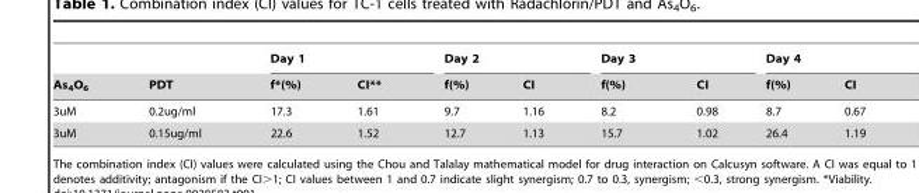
<table><thead><tr><td rowspan="2">As<sub>4</sub>O<sub>6</sub></td><td rowspan="2">PDT</td><td colspan="2">Day 1</td><td colspan="2">Day 2</td><td colspan="2">Day 3</td><td colspan="2">Day 4</td></tr><tr><td>f*(%)</td><td>CI**</td><td>f(%)</td><td>CI</td><td>f(%)</td><td>CI</td><td>f(%)</td><td>CI</td></tr></thead><tbody><tr><td>3uM</td><td>0.2ug/ml</td><td>17.3</td><td>1.61</td><td>9.7</td><td>1.16</td><td>8.2</td><td>0.98</td><td>8.7</td><td>0.67</td></tr><tr><td>3uM</td><td>0.15ug/ml</td><td>22.6</td><td>1.52</td><td>12.7</td><td>1.13</td><td>15.7</td><td>1.02</td><td>26.4</td><td>1.19</td></tr></tbody></table>